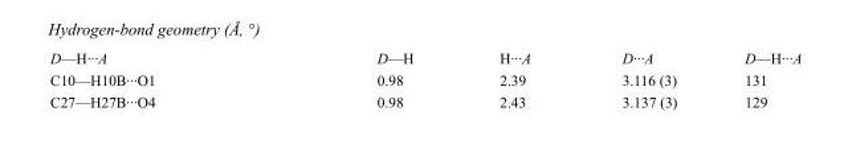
<table><tbody><tr><td>D—H···A</td><td>D—H</td><td>H···A</td><td>D···A</td><td>D—H···A</td></tr><tr><td>C10—H10B···O1</td><td>0.98</td><td>2.39</td><td>3.116 (3)</td><td>131</td></tr><tr><td>C27—H27B···O4</td><td>0.98</td><td>2.43</td><td>3.137 (3)</td><td>129</td></tr></tbody></table>